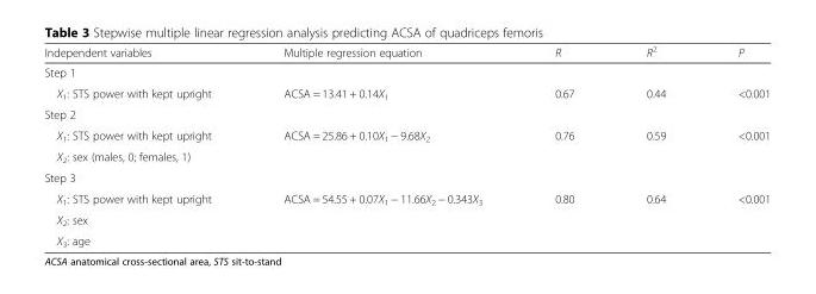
<table><thead><tr><td>Independent variables</td><td>Multiple regression equation</td><td>R</td><td>R<sup>2</sup></td><td>P</td></tr></thead><tbody><tr><td colspan="5">Step 1</td></tr><tr><td>X<sub>1</sub>: STS power with kept upright</td><td>ACSA = 13.41 + 0.14X<sub>1</sub></td><td>0.67</td><td>0.44</td><td>&lt;0.001</td></tr><tr><td colspan="5">Step 2</td></tr><tr><td>X<sub>1</sub>: STS power with kept upright</td><td>ACSA = 25.86 + 0.10X<sub>1</sub> − 9.68X<sub>2</sub></td><td>0.76</td><td>0.59</td><td>&lt;0.001</td></tr><tr><td colspan="5">X<sub>2</sub>: sex (males, 0; females, 1)</td></tr><tr><td colspan="5">Step 3</td></tr><tr><td>X<sub>1</sub>: STS power with kept upright</td><td>ACSA = 54.55 + 0.07X<sub>1</sub> − 11.66X<sub>2</sub> − 0.343X<sub>3</sub></td><td>0.80</td><td>0.64</td><td>&lt;0.001</td></tr><tr><td colspan="5">X<sub>2</sub>: sex</td></tr><tr><td>X<sub>3</sub>: age</td><td></td><td></td><td></td><td></td></tr></tbody></table>